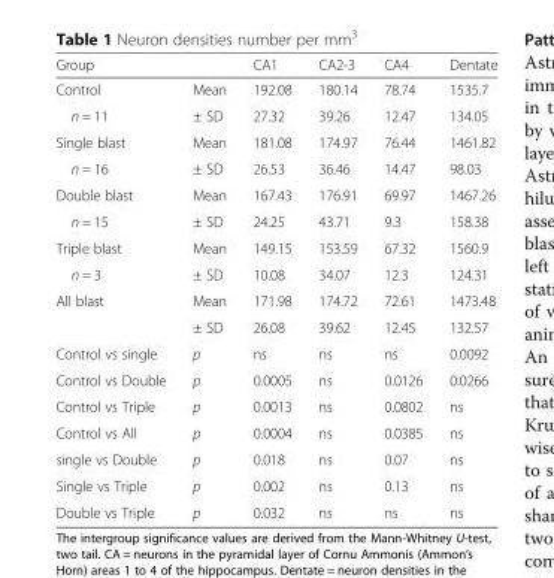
<table><thead><tr><td>Group</td><td></td><td>CA1</td><td>CA2-3</td><td>CA4</td><td>Dentate</td></tr></thead><tbody><tr><td>Control</td><td>Mean</td><td>192.08</td><td>180.14</td><td>78.74</td><td>1535.7</td></tr><tr><td>n = 11</td><td>± SD</td><td>27.32</td><td>39.26</td><td>12.47</td><td>134.05</td></tr><tr><td>Single blast</td><td>Mean</td><td>181.08</td><td>174.97</td><td>76.44</td><td>1461.82</td></tr><tr><td>n = 16</td><td>± SD</td><td>26.53</td><td>36.46</td><td>14.47</td><td>98.03</td></tr><tr><td>Double blast</td><td>Mean</td><td>167.43</td><td>176.91</td><td>69.97</td><td>1467.26</td></tr><tr><td>n = 15</td><td>± SD</td><td>24.25</td><td>43.71</td><td>9.3</td><td>158.38</td></tr><tr><td>Triple blast</td><td>Mean</td><td>149.15</td><td>153.59</td><td>67.32</td><td>1560.9</td></tr><tr><td>n = 3</td><td>± SD</td><td>10.08</td><td>34.07</td><td>12.3</td><td>124.31</td></tr><tr><td rowspan="2">All blast</td><td>Mean</td><td>171.98</td><td>174.72</td><td>72.61</td><td>1473.48</td></tr><tr><td>± SD</td><td>26.08</td><td>39.62</td><td>12.45</td><td>132.57</td></tr><tr><td>Control vs single</td><td>p</td><td>ns</td><td>ns</td><td>ns</td><td>0.0092</td></tr><tr><td>Control vs Double</td><td>p</td><td>0.0005</td><td>ns</td><td>0.0126</td><td>0.0266</td></tr><tr><td>Control vs Triple</td><td>p</td><td>0.0013</td><td>ns</td><td>0.0802</td><td>ns</td></tr><tr><td>Control vs All</td><td>p</td><td>0.0004</td><td>ns</td><td>0.0385</td><td>ns</td></tr><tr><td>single vs Double</td><td>p</td><td>0.018</td><td>ns</td><td>0.07</td><td>ns</td></tr><tr><td>Single vs Triple</td><td>p</td><td>0.002</td><td>ns</td><td>0.13</td><td>ns</td></tr><tr><td>Double vs Triple</td><td>p</td><td>0.032</td><td>ns</td><td>ns</td><td>ns</td></tr></tbody></table>